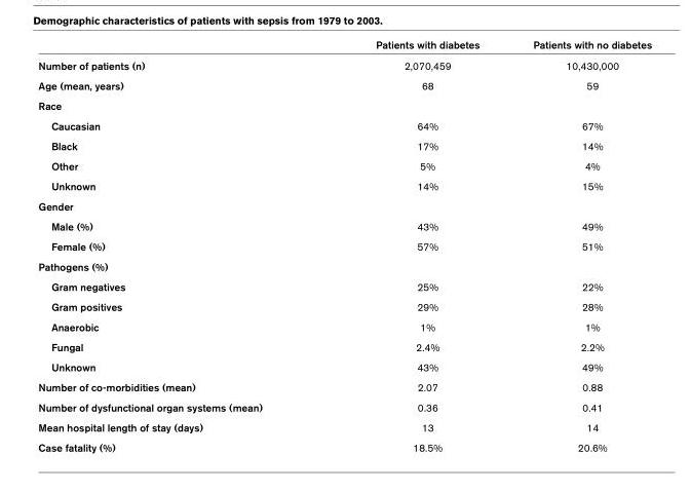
<table><thead><tr><td></td><td>Patients with diabetes</td><td>Patients with no diabetes</td></tr></thead><tbody><tr><td>Number of patients (n)</td><td>2,070,459</td><td>10,430,000</td></tr><tr><td>Age (mean, years)</td><td>68</td><td>59</td></tr><tr><td colspan="3">Race</td></tr><tr><td>Caucasian</td><td>64%</td><td>67%</td></tr><tr><td>Black</td><td>17%</td><td>14%</td></tr><tr><td>Other</td><td>5%</td><td>4%</td></tr><tr><td>Unknown</td><td>14%</td><td>15%</td></tr><tr><td colspan="3">Gender</td></tr><tr><td>Male (%)</td><td>43%</td><td>49%</td></tr><tr><td>Female (%)</td><td>57%</td><td>51%</td></tr><tr><td colspan="3">Pathogens (%)</td></tr><tr><td>Gram negatives</td><td>25%</td><td>22%</td></tr><tr><td>Gram positives</td><td>29%</td><td>28%</td></tr><tr><td>Anaerobic</td><td>1%</td><td>1%</td></tr><tr><td>Fungal</td><td>2.4%</td><td>2.2%</td></tr><tr><td>Unknown</td><td>43%</td><td>49%</td></tr><tr><td>Number of co-morbidities (mean)</td><td>2.07</td><td>0.88</td></tr><tr><td>Number of dysfunctional organ systems (mean)</td><td>0.36</td><td>0.41</td></tr><tr><td>Mean hospital length of stay (days)</td><td>13</td><td>14</td></tr><tr><td>Case fatality (%)</td><td>18.5%</td><td>20.6%</td></tr></tbody></table>